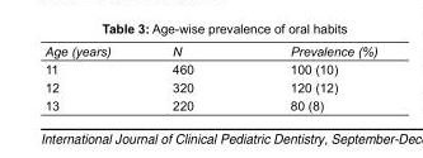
<table><tbody><tr><td>Age (years)</td><td>N</td><td>Prevalence (%)</td></tr><tr><td>11</td><td>460</td><td>100 (10)</td></tr><tr><td>12</td><td>320</td><td>120 (12)</td></tr><tr><td>13</td><td>220</td><td>80 (8)</td></tr></tbody></table>